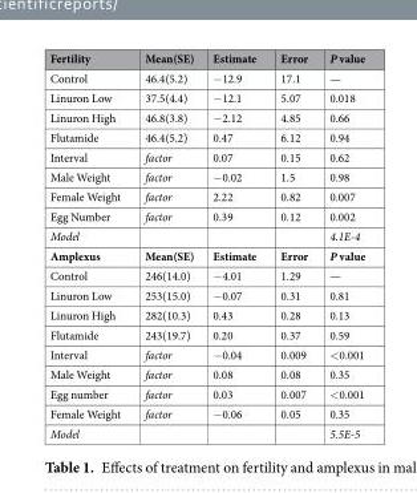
<table><thead><tr><td>Fertility</td><td>Mean(SE)</td><td>Estimate</td><td>Error</td><td>P value</td></tr></thead><tbody><tr><td>Control</td><td>46.4(5.2)</td><td>−12.9</td><td>17.1</td><td>—</td></tr><tr><td>Linuron Low</td><td>37.5(4.4)</td><td>−12.1</td><td>5.07</td><td>0.018</td></tr><tr><td>Linuron High</td><td>46.8(3.8)</td><td>−2.12</td><td>4.85</td><td>0.66</td></tr><tr><td>Flutamide</td><td>46.4(5.2)</td><td>0.47</td><td>6.12</td><td>0.94</td></tr><tr><td>Interval</td><td>factor</td><td>0.07</td><td>0.15</td><td>0.62</td></tr><tr><td>Male Weight</td><td>factor</td><td>−0.02</td><td>1.5</td><td>0.98</td></tr><tr><td>Female Weight</td><td>factor</td><td>2.22</td><td>0.82</td><td>0.007</td></tr><tr><td>Egg Number</td><td>factor</td><td>0.39</td><td>0.12</td><td>0.002</td></tr><tr><td>Model</td><td></td><td></td><td></td><td>4.1E-4</td></tr><tr><td>Amplexus</td><td>Mean(SE)</td><td>Estimate</td><td>Error</td><td>P value</td></tr><tr><td>Control</td><td>246(14.0)</td><td>−4.01</td><td>1.29</td><td>—</td></tr><tr><td>Linuron Low</td><td>253(15.0)</td><td>−0.07</td><td>0.31</td><td>0.81</td></tr><tr><td>Linuron High</td><td>282(10.3)</td><td>0.43</td><td>0.28</td><td>0.13</td></tr><tr><td>Flutamide</td><td>243(19.7)</td><td>0.20</td><td>0.37</td><td>0.59</td></tr><tr><td>Interval</td><td>factor</td><td>−0.04</td><td>0.009</td><td>&lt;0.001</td></tr><tr><td>Male Weight</td><td>factor</td><td>0.08</td><td>0.08</td><td>0.35</td></tr><tr><td>Egg number</td><td>factor</td><td>0.03</td><td>0.007</td><td>&lt;0.001</td></tr><tr><td>Female Weight</td><td>factor</td><td>−0.06</td><td>0.05</td><td>0.35</td></tr><tr><td>Model</td><td></td><td></td><td></td><td>5.5E-5</td></tr></tbody></table>